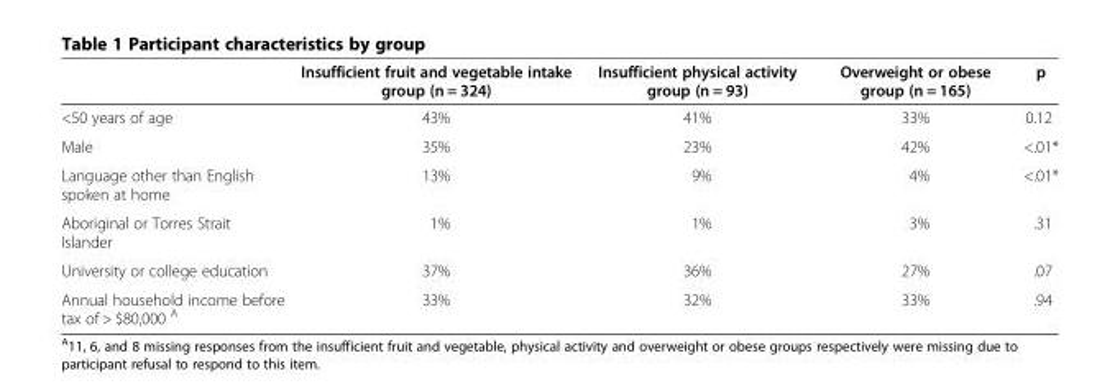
<table><thead><tr><td></td><td>Insufficient fruit and vegetable intake group (n = 324)</td><td>Insufficient physical activity group (n = 93)</td><td>Overweight or obese group (n = 165)</td><td>p</td></tr></thead><tbody><tr><td>&lt;50 years of age</td><td>43%</td><td>41%</td><td>33%</td><td>0.12</td></tr><tr><td>Male</td><td>35%</td><td>23%</td><td>42%</td><td>&lt;.01*</td></tr><tr><td>Language other than English spoken at home</td><td>13%</td><td>9%</td><td>4%</td><td>&lt;.01*</td></tr><tr><td>Aboriginal or Torres Strait Islander</td><td>1%</td><td>1%</td><td>3%</td><td>.31</td></tr><tr><td>University or college education</td><td>37%</td><td>36%</td><td>27%</td><td>.07</td></tr><tr><td>Annual household income before tax of &gt; $80,000 <sup>A</sup></td><td>33%</td><td>32%</td><td>33%</td><td>.94</td></tr></tbody></table>